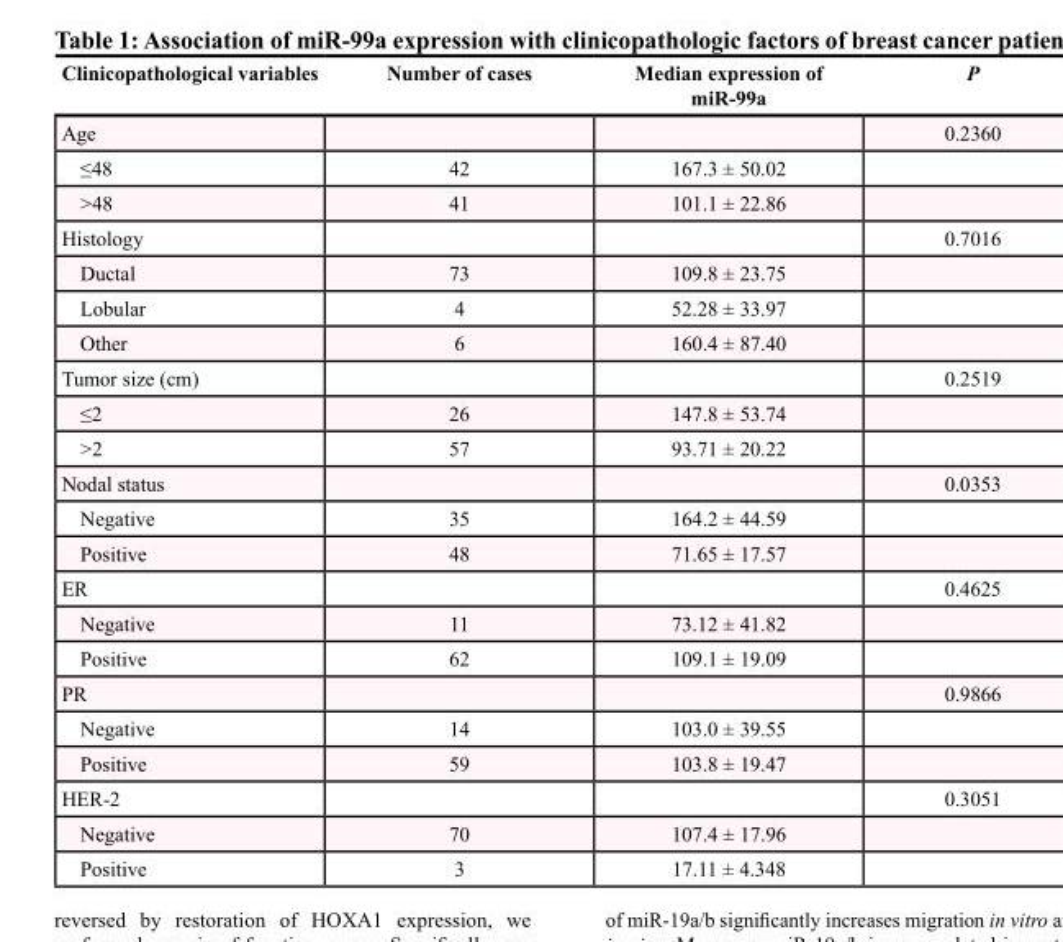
<table><thead><tr><td>Clinicopathological variables</td><td>Number of cases</td><td>Median expression of miR-99a</td><td>P</td></tr></thead><tbody><tr><td>Age</td><td></td><td></td><td>0.2360</td></tr><tr><td>≤48</td><td>42</td><td>167.3 ± 50.02</td><td></td></tr><tr><td>&gt;48</td><td>41</td><td>101.1 ± 22.86</td><td></td></tr><tr><td>Histology</td><td></td><td></td><td>0.7016</td></tr><tr><td>Ductal</td><td>73</td><td>109.8 ± 23.75</td><td></td></tr><tr><td>Lobular</td><td>4</td><td>52.28 ± 33.97</td><td></td></tr><tr><td>Other</td><td>6</td><td>160.4 ± 87.40</td><td></td></tr><tr><td>Tumor size (cm)</td><td></td><td></td><td>0.2519</td></tr><tr><td>≤2</td><td>26</td><td>147.8 ± 53.74</td><td></td></tr><tr><td>&gt;2</td><td>57</td><td>93.71 ± 20.22</td><td></td></tr><tr><td>Nodal status</td><td></td><td></td><td>0.0353</td></tr><tr><td>Negative</td><td>35</td><td>164.2 ± 44.59</td><td></td></tr><tr><td>Positive</td><td>48</td><td>71.65 ± 17.57</td><td></td></tr><tr><td>ER</td><td></td><td></td><td>0.4625</td></tr><tr><td>Negative</td><td>11</td><td>73.12 ± 41.82</td><td></td></tr><tr><td>Positive</td><td>62</td><td>109.1 ± 19.09</td><td></td></tr><tr><td>PR</td><td></td><td></td><td>0.9866</td></tr><tr><td>Negative</td><td>14</td><td>103.0 ± 39.55</td><td></td></tr><tr><td>Positive</td><td>59</td><td>103.8 ± 19.47</td><td></td></tr><tr><td>HER-2</td><td></td><td></td><td>0.3051</td></tr><tr><td>Negative</td><td>70</td><td>107.4 ± 17.96</td><td></td></tr><tr><td>Positive</td><td>3</td><td>17.11 ± 4.348</td><td></td></tr></tbody></table>